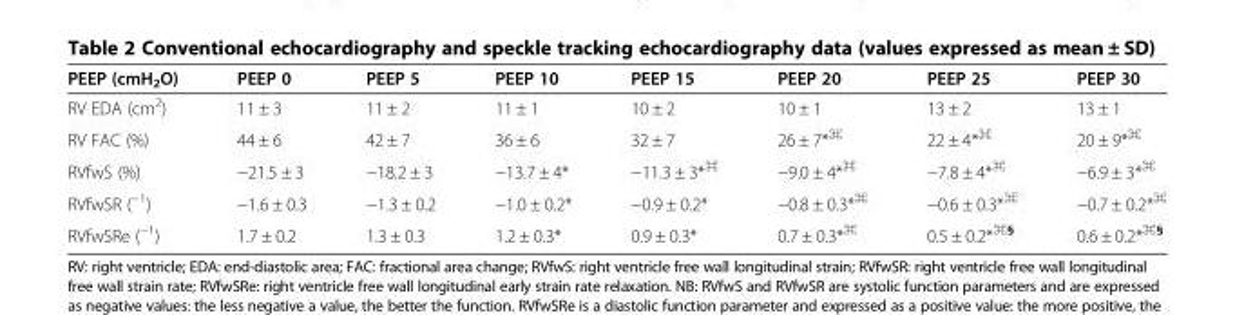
<table><thead><tr><td>PEEP (cmH<sub>2</sub>O)</td><td>PEEP 0</td><td>PEEP 5</td><td>PEEP 10</td><td>PEEP 15</td><td>PEEP 20</td><td>PEEP 25</td><td>PEEP 30</td></tr></thead><tbody><tr><td>RV EDA (cm<sup>2</sup>)</td><td>11 ± 3</td><td>11 ± 2</td><td>11 ± 1</td><td>10 ± 2</td><td>10 ± 1</td><td>13 ± 2</td><td>13 ± 1</td></tr><tr><td>RV FAC (%)</td><td>44 ± 6</td><td>42 ± 7</td><td>36 ± 6</td><td>32 ± 7</td><td>26 ± 7*<sup>⌘</sup></td><td>22 ± 4*<sup>⌘</sup></td><td>20 ± 9*<sup>⌘</sup></td></tr><tr><td>RVfwS (%)</td><td>−21.5 ± 3</td><td>−18.2 ± 3</td><td>−13.7 ± 4*</td><td>−11.3 ± 3*<sup>⌘</sup></td><td>−9.0 ± 4*<sup>⌘</sup></td><td>−7.8 ± 4*<sup>⌘</sup></td><td>−6.9 ± 3*<sup>⌘</sup></td></tr><tr><td>RVfwSR (<sup>−1</sup>)</td><td>−1.6 ± 0.3</td><td>−1.3 ± 0.2</td><td>−1.0 ± 0.2*</td><td>−0.9 ± 0.2*</td><td>−0.8 ± 0.3*<sup>⌘</sup></td><td>−0.6 ± 0.3*<sup>⌘</sup></td><td>−0.7 ± 0.2*<sup>⌘</sup></td></tr><tr><td>RVfwSRe (<sup>−1</sup>)</td><td>1.7 ± 0.2</td><td>1.3 ± 0.3</td><td>1.2 ± 0.3*</td><td>0.9 ± 0.3*</td><td>0.7 ± 0.3*<sup>⌘</sup></td><td>0.5 ± 0.2*<sup>⌘§</sup></td><td>0.6 ± 0.2*<sup>⌘§</sup></td></tr></tbody></table>